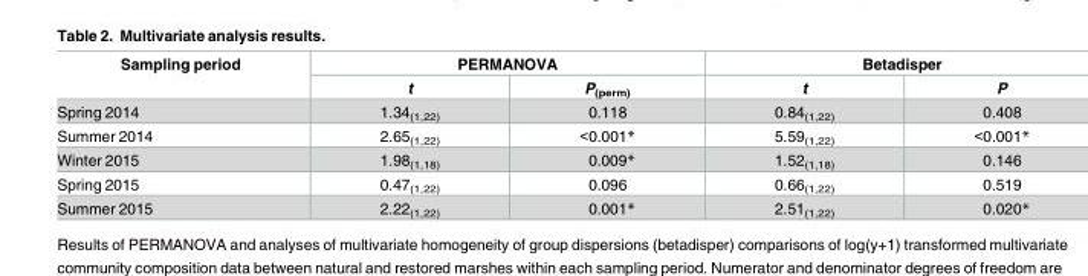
<table><thead><tr><td rowspan="2">Sampling period</td><td colspan="2">PERMANOVA</td><td colspan="2">Betadisper</td></tr><tr><td>t</td><td>P<sub>(perm)</sub></td><td>t</td><td>P</td></tr></thead><tbody><tr><td>Spring 2014</td><td>1.34<sub>(1,22)</sub></td><td>0.118</td><td>0.84<sub>(1,22)</sub></td><td>0.408</td></tr><tr><td>Summer 2014</td><td>2.65<sub>(1,22)</sub></td><td>&lt;0.001*</td><td>5.59<sub>(1,22)</sub></td><td>&lt;0.001*</td></tr><tr><td>Winter 2015</td><td>1.98<sub>(1,18)</sub></td><td>0.009*</td><td>1.52<sub>(1,18)</sub></td><td>0.146</td></tr><tr><td>Spring 2015</td><td>0.47<sub>(1,22)</sub></td><td>0.096</td><td>0.66<sub>(1,22)</sub></td><td>0.519</td></tr><tr><td>Summer 2015</td><td>2.22<sub>(1,22)</sub></td><td>0.001*</td><td>2.51<sub>(1,22)</sub></td><td>0.020*</td></tr></tbody></table>